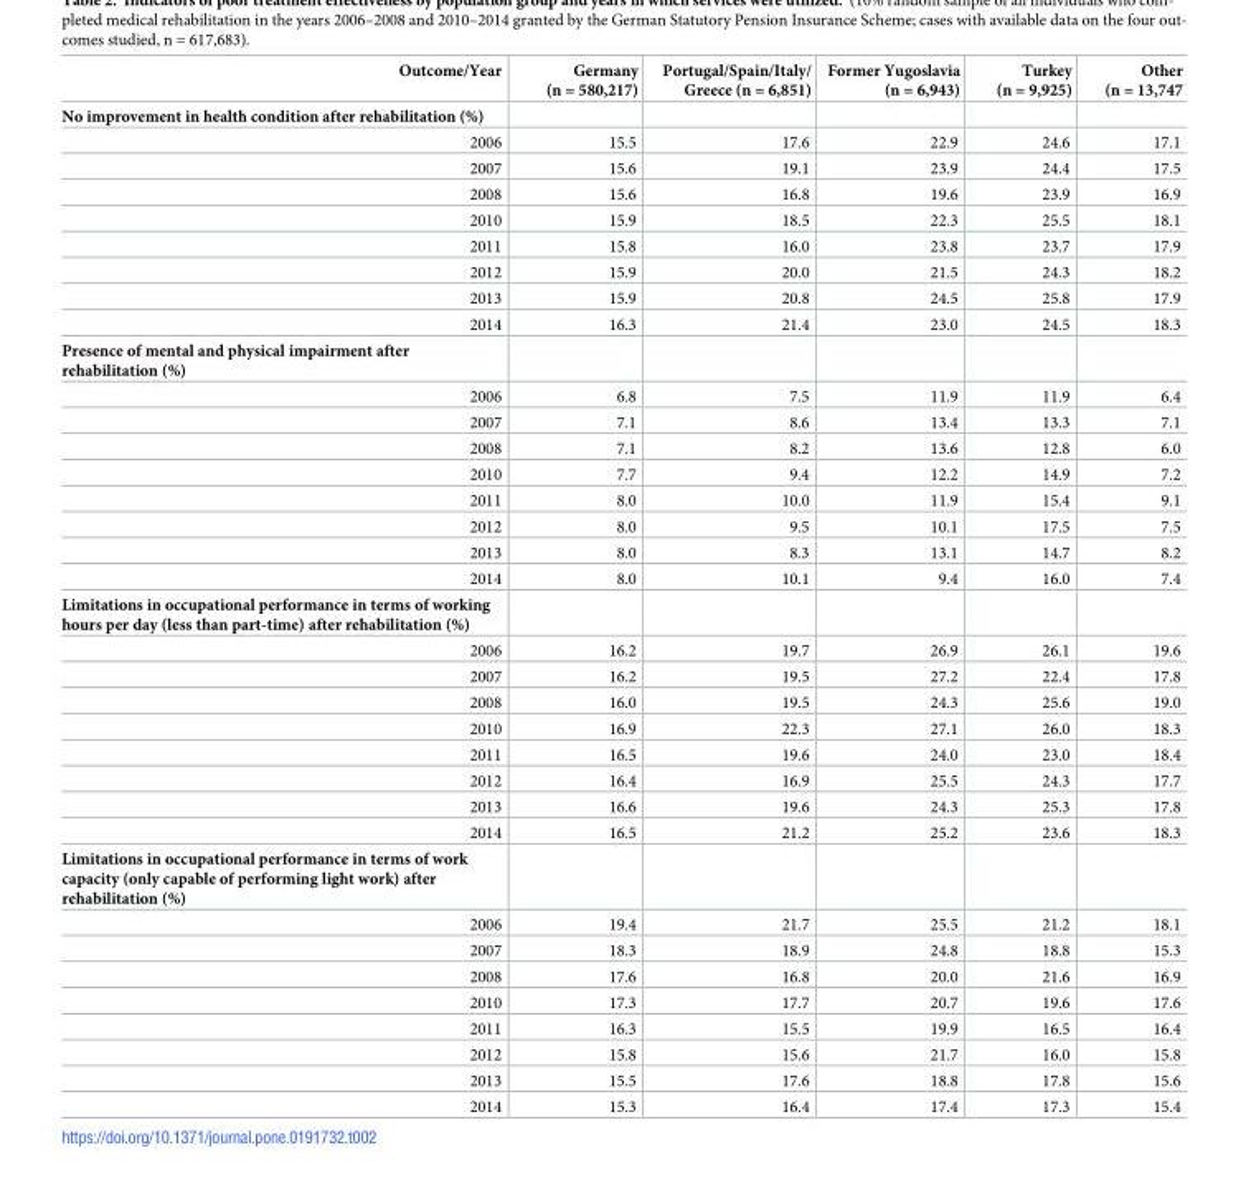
<table><thead><tr><td>Outcome/Year</td><td>Germany (n = 580,217)</td><td>Portugal/Spain/Italy/ Greece (n = 6,851)</td><td>Former Yugoslavia (n = 6,943)</td><td>Turkey (n = 9,925)</td><td>Other (n = 13,747</td></tr></thead><tbody><tr><td colspan="6">No improvement in health condition after rehabilitation (%)</td></tr><tr><td>2006</td><td>15.5</td><td>17.6</td><td>22.9</td><td>24.6</td><td>17.1</td></tr><tr><td>2007</td><td>15.6</td><td>19.1</td><td>23.9</td><td>24.4</td><td>17.5</td></tr><tr><td>2008</td><td>15.6</td><td>16.8</td><td>19.6</td><td>23.9</td><td>16.9</td></tr><tr><td>2010</td><td>15.9</td><td>18.5</td><td>22.3</td><td>25.5</td><td>18.1</td></tr><tr><td>2011</td><td>15.8</td><td>16.0</td><td>23.8</td><td>23.7</td><td>17.9</td></tr><tr><td>2012</td><td>15.9</td><td>20.0</td><td>21.5</td><td>24.3</td><td>18.2</td></tr><tr><td>2013</td><td>15.9</td><td>20.8</td><td>24.5</td><td>25.8</td><td>17.9</td></tr><tr><td>2014</td><td>16.3</td><td>21.4</td><td>23.0</td><td>24.5</td><td>18.3</td></tr><tr><td colspan="6">Presence of mental and physical impairment after rehabilitation (%)</td></tr><tr><td>2006</td><td>6.8</td><td>7.5</td><td>11.9</td><td>11.9</td><td>6.4</td></tr><tr><td>2007</td><td>7.1</td><td>8.6</td><td>13.4</td><td>13.3</td><td>7.1</td></tr><tr><td>2008</td><td>7.1</td><td>8.2</td><td>13.6</td><td>12.8</td><td>6.0</td></tr><tr><td>2010</td><td>7.7</td><td>9.4</td><td>12.2</td><td>14.9</td><td>7.2</td></tr><tr><td>2011</td><td>8.0</td><td>10.0</td><td>11.9</td><td>15.4</td><td>9.1</td></tr><tr><td>2012</td><td>8.0</td><td>9.5</td><td>10.1</td><td>17.5</td><td>7.5</td></tr><tr><td>2013</td><td>8.0</td><td>8.3</td><td>13.1</td><td>14.7</td><td>8.2</td></tr><tr><td>2014</td><td>8.0</td><td>10.1</td><td>9.4</td><td>16.0</td><td>7.4</td></tr><tr><td colspan="6">Limitations in occupational performance in terms of working hours per day (less than part-time) after rehabilitation (%)</td></tr><tr><td>2006</td><td>16.2</td><td>19.7</td><td>26.9</td><td>26.1</td><td>19.6</td></tr><tr><td>2007</td><td>16.2</td><td>19.5</td><td>27.2</td><td>22.4</td><td>17.8</td></tr><tr><td>2008</td><td>16.0</td><td>19.5</td><td>24.3</td><td>25.6</td><td>19.0</td></tr><tr><td>2010</td><td>16.9</td><td>22.3</td><td>27.1</td><td>26.0</td><td>18.3</td></tr><tr><td>2011</td><td>16.5</td><td>19.6</td><td>24.0</td><td>23.0</td><td>18.4</td></tr><tr><td>2012</td><td>16.4</td><td>16.9</td><td>25.5</td><td>24.3</td><td>17.7</td></tr><tr><td>2013</td><td>16.6</td><td>19.6</td><td>24.3</td><td>25.3</td><td>17.8</td></tr><tr><td>2014</td><td>16.5</td><td>21.2</td><td>25.2</td><td>23.6</td><td>18.3</td></tr><tr><td colspan="6">Limitations in occupational performance in terms of work capacity (only capable of performing light work) after rehabilitation (%)</td></tr><tr><td>2006</td><td>19.4</td><td>21.7</td><td>25.5</td><td>21.2</td><td>18.1</td></tr><tr><td>2007</td><td>18.3</td><td>18.9</td><td>24.8</td><td>18.8</td><td>15.3</td></tr><tr><td>2008</td><td>17.6</td><td>16.8</td><td>20.0</td><td>21.6</td><td>16.9</td></tr><tr><td>2010</td><td>17.3</td><td>17.7</td><td>20.7</td><td>19.6</td><td>17.6</td></tr><tr><td>2011</td><td>16.3</td><td>15.5</td><td>19.9</td><td>16.5</td><td>16.4</td></tr><tr><td>2012</td><td>15.8</td><td>15.6</td><td>21.7</td><td>16.0</td><td>15.8</td></tr><tr><td>2013</td><td>15.5</td><td>17.6</td><td>18.8</td><td>17.8</td><td>15.6</td></tr><tr><td>2014</td><td>15.3</td><td>16.4</td><td>17.4</td><td>17.3</td><td>15.4</td></tr></tbody></table>